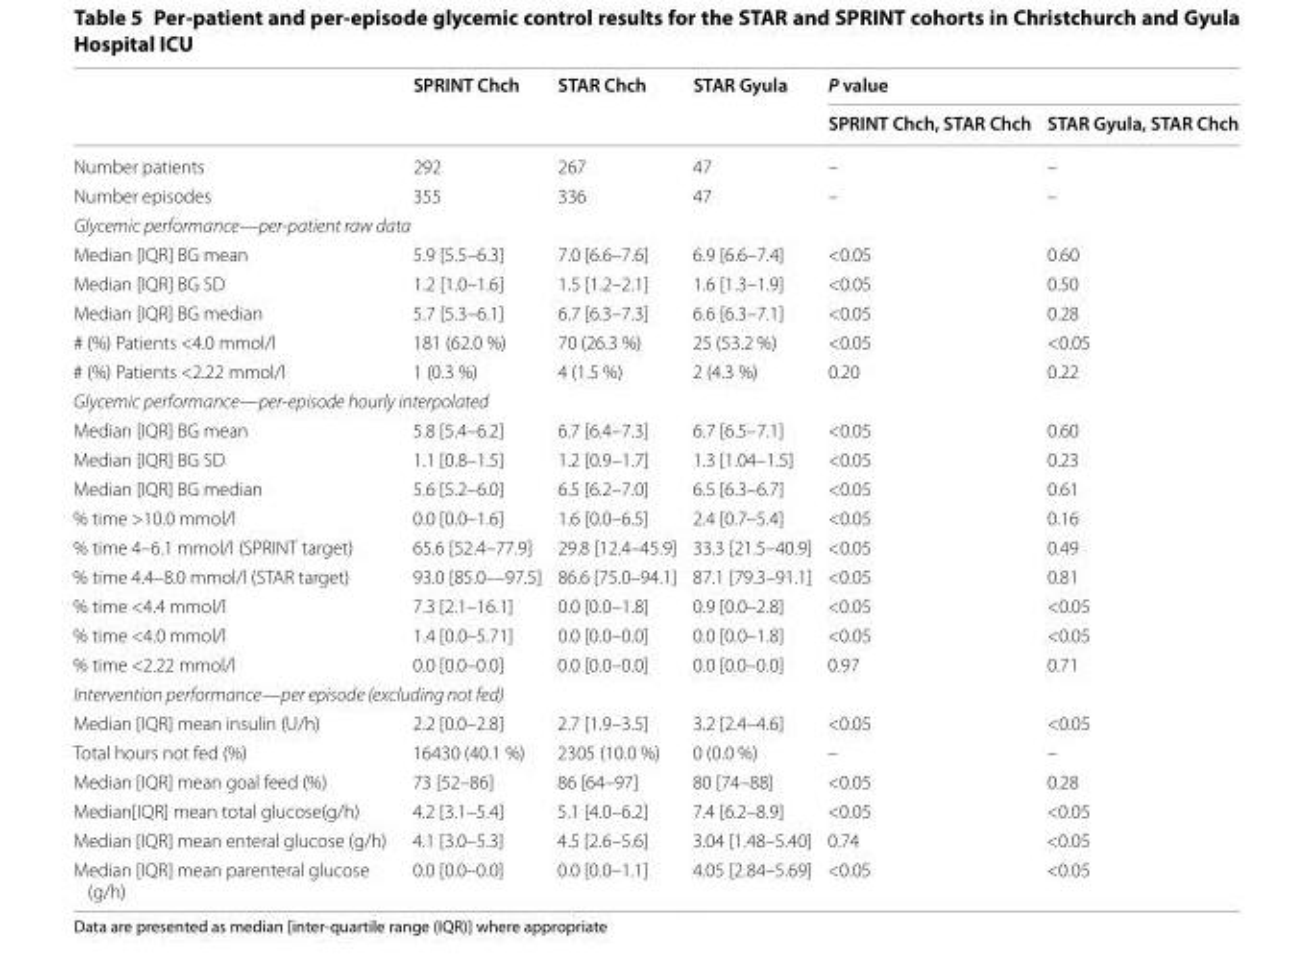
<table><thead><tr><td rowspan="2"></td><td rowspan="2">SPRINT Chch</td><td rowspan="2">STAR Chch</td><td rowspan="2">STAR Gyula</td><td colspan="2">P value</td></tr><tr><td>SPRINT Chch, STAR Chch</td><td>STAR Gyula, STAR Chch</td></tr></thead><tbody><tr><td>Number patients</td><td>292</td><td>267</td><td>47</td><td>–</td><td>–</td></tr><tr><td>Number episodes</td><td>355</td><td>336</td><td>47</td><td>–</td><td>–</td></tr><tr><td colspan="6">Glycemic performance—per-patient raw data</td></tr><tr><td>Median [IQR] BG mean</td><td>5.9 [5.5–6.3]</td><td>7.0 [6.6–7.6]</td><td>6.9 [6.6–7.4]</td><td>&lt;0.05</td><td>0.60</td></tr><tr><td>Median [IQR] BG SD</td><td>1.2 [1.0–1.6]</td><td>1.5 [1.2–2.1]</td><td>1.6 [1.3–1.9]</td><td>&lt;0.05</td><td>0.50</td></tr><tr><td>Median [IQR] BG median</td><td>5.7 [5.3–6.1]</td><td>6.7 [6.3–7.3]</td><td>6.6 [6.3–7.1]</td><td>&lt;0.05</td><td>0.28</td></tr><tr><td># (%) Patients &lt;4.0 mmol/l</td><td>181 (62.0 %)</td><td>70 (26.3 %)</td><td>25 (53.2 %)</td><td>&lt;0.05</td><td>&lt;0.05</td></tr><tr><td># (%) Patients &lt;2.22 mmol/l</td><td>1 (0.3 %)</td><td>4 (1.5 %)</td><td>2 (4.3 %)</td><td>0.20</td><td>0.22</td></tr><tr><td colspan="6">Glycemic performance—per-episode hourly interpolated</td></tr><tr><td>Median [IQR] BG mean</td><td>5.8 [5.4–6.2]</td><td>6.7 [6.4–7.3]</td><td>6.7 [6.5–7.1]</td><td>&lt;0.05</td><td>0.60</td></tr><tr><td>Median [IQR] BG SD</td><td>1.1 [0.8–1.5]</td><td>1.2 [0.9–1.7]</td><td>1.3 [1.04–1.5]</td><td>&lt;0.05</td><td>0.23</td></tr><tr><td>Median [IQR] BG median</td><td>5.6 [5.2–6.0]</td><td>6.5 [6.2–7.0]</td><td>6.5 [6.3–6.7]</td><td>&lt;0.05</td><td>0.61</td></tr><tr><td>% time &gt;10.0 mmol/l</td><td>0.0 [0.0–1.6]</td><td>1.6 [0.0–6.5]</td><td>2.4 [0.7–5.4]</td><td>&lt;0.05</td><td>0.16</td></tr><tr><td>% time 4–6.1 mmol/l (SPRINT target)</td><td>65.6 [52.4–77.9]</td><td>29.8 [12.4–45.9]</td><td>33.3 [21.5–40.9]</td><td>&lt;0.05</td><td>0.49</td></tr><tr><td>% time 4.4–8.0 mmol/l (STAR target)</td><td>93.0 [85.0––97.5]</td><td>86.6 [75.0–94.1]</td><td>87.1 [79.3–91.1]</td><td>&lt;0.05</td><td>0.81</td></tr><tr><td>% time &lt;4.4 mmol/l</td><td>7.3 [2.1–16.1]</td><td>0.0 [0.0–1.8]</td><td>0.9 [0.0–2.8]</td><td>&lt;0.05</td><td>&lt;0.05</td></tr><tr><td>% time &lt;4.0 mmol/l</td><td>1.4 [0.0–5.71]</td><td>0.0 [0.0–0.0]</td><td>0.0 [0.0–1.8]</td><td>&lt;0.05</td><td>&lt;0.05</td></tr><tr><td>% time &lt;2.22 mmol/l</td><td>0.0 [0.0–0.0]</td><td>0.0 [0.0–0.0]</td><td>0.0 [0.0–0.0]</td><td>0.97</td><td>0.71</td></tr><tr><td colspan="6">Intervention performance—per episode (excluding not fed)</td></tr><tr><td>Median [IQR] mean insulin (U/h)</td><td>2.2 [0.0–2.8]</td><td>2.7 [1.9–3.5]</td><td>3.2 [2.4–4.6]</td><td>&lt;0.05</td><td>&lt;0.05</td></tr><tr><td>Total hours not fed (%)</td><td>16430 (40.1 %)</td><td>2305 (10.0 %)</td><td>0 (0.0 %)</td><td>–</td><td>–</td></tr><tr><td>Median [IQR] mean goal feed (%)</td><td>73 [52–86]</td><td>86 [64–97]</td><td>80 [74–88]</td><td>&lt;0.05</td><td>0.28</td></tr><tr><td>Median[IQR] mean total glucose(g/h)</td><td>4.2 [3.1–5.4]</td><td>5.1 [4.0–6.2]</td><td>7.4 [6.2–8.9]</td><td>&lt;0.05</td><td>&lt;0.05</td></tr><tr><td>Median [IQR] mean enteral glucose (g/h)</td><td>4.1 [3.0–5.3]</td><td>4.5 [2.6–5.6]</td><td>3.04 [1.48–5.40]</td><td>0.74</td><td>&lt;0.05</td></tr><tr><td>Median [IQR] mean parenteral glucose (g/h)</td><td>0.0 [0.0–0.0]</td><td>0.0 [0.0–1.1]</td><td>4.05 [2.84–5.69]</td><td>&lt;0.05</td><td>&lt;0.05</td></tr></tbody></table>